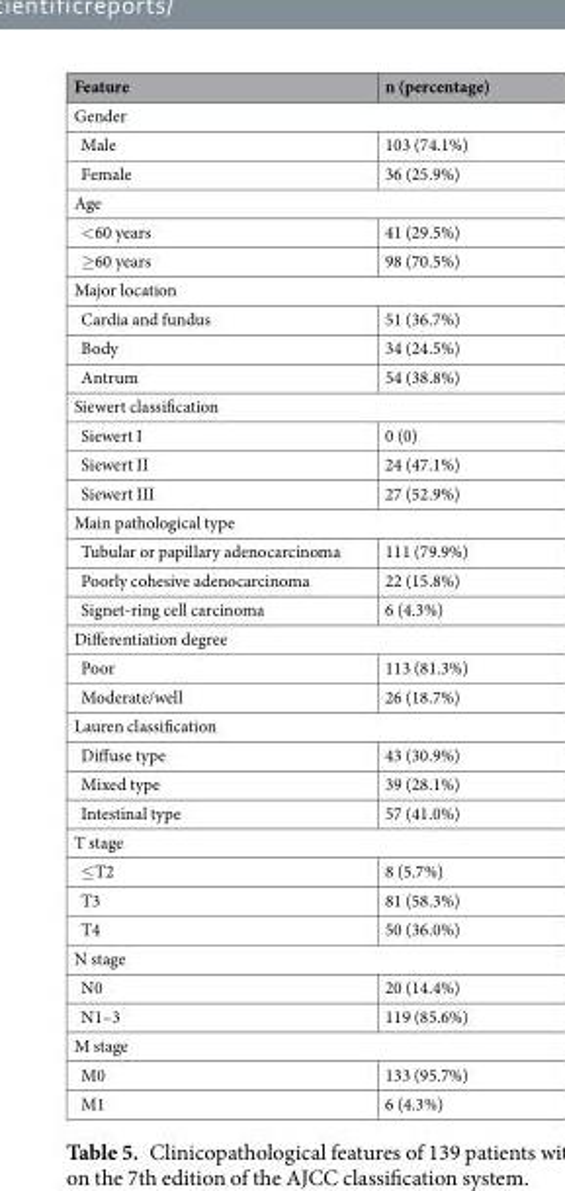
<table><thead><tr><td>Feature</td><td>n (percentage)</td></tr></thead><tbody><tr><td colspan="2">Gender</td></tr><tr><td>Male</td><td>103 (74.1%)</td></tr><tr><td>Female</td><td>36 (25.9%)</td></tr><tr><td colspan="2">Age</td></tr><tr><td>&lt;60 years</td><td>41 (29.5%)</td></tr><tr><td>≥60 years</td><td>98 (70.5%)</td></tr><tr><td colspan="2">Major location</td></tr><tr><td>Cardia and fundus</td><td>51 (36.7%)</td></tr><tr><td>Body</td><td>34 (24.5%)</td></tr><tr><td>Antrum</td><td>54 (38.8%)</td></tr><tr><td colspan="2">Siewert classification</td></tr><tr><td>Siewert I</td><td>0 (0)</td></tr><tr><td>Siewert II</td><td>24 (47.1%)</td></tr><tr><td>Siewert III</td><td>27 (52.9%)</td></tr><tr><td colspan="2">Main pathological type</td></tr><tr><td>Tubular or papillary adenocarcinoma</td><td>111 (79.9%)</td></tr><tr><td>Poorly cohesive adenocarcinoma</td><td>22 (15.8%)</td></tr><tr><td>Signet-ring cell carcinoma</td><td>6 (4.3%)</td></tr><tr><td colspan="2">Differentiation degree</td></tr><tr><td>Poor</td><td>113 (81.3%)</td></tr><tr><td>Moderate/well</td><td>26 (18.7%)</td></tr><tr><td colspan="2">Lauren classification</td></tr><tr><td>Diffuse type</td><td>43 (30.9%)</td></tr><tr><td>Mixed type</td><td>39 (28.1%)</td></tr><tr><td>Intestinal type</td><td>57 (41.0%)</td></tr><tr><td colspan="2">T stage</td></tr><tr><td>≤T2</td><td>8 (5.7%)</td></tr><tr><td>T3</td><td>81 (58.3%)</td></tr><tr><td>T4</td><td>50 (36.0%)</td></tr><tr><td colspan="2">N stage</td></tr><tr><td>N0</td><td>20 (14.4%)</td></tr><tr><td>N1–3</td><td>119 (85.6%)</td></tr><tr><td colspan="2">M stage</td></tr><tr><td>M0</td><td>133 (95.7%)</td></tr><tr><td>M1</td><td>6 (4.3%)</td></tr></tbody></table>